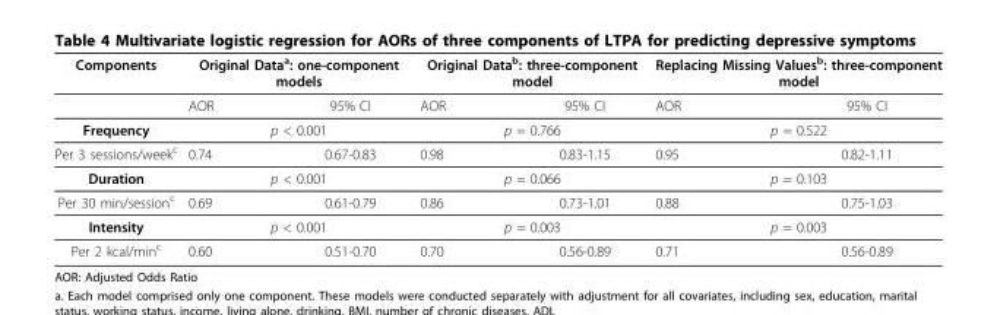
<table><thead><tr><td rowspan="2">Components</td><td colspan="2">Original Data<sup>a</sup>: one-component models</td><td colspan="2">Original Data<sup>b</sup>: three-component model</td><td colspan="2">Replacing Missing Values<sup>b</sup>: three-component model</td></tr><tr><td>AOR</td><td>95% CI</td><td>AOR</td><td>95% CI</td><td>AOR</td><td>95% CI</td></tr></thead><tbody><tr><td>Frequency</td><td colspan="2">p &lt; 0.001</td><td colspan="2">p = 0.766</td><td colspan="2">p = 0.522</td></tr><tr><td>Per 3 sessions/week<sup>c</sup></td><td>0.74</td><td>0.67-0.83</td><td>0.98</td><td>0.83-1.15</td><td>0.95</td><td>0.82-1.11</td></tr><tr><td>Duration</td><td colspan="2">p &lt; 0.001</td><td colspan="2">p = 0.066</td><td colspan="2">p = 0.103</td></tr><tr><td>Per 30 min/session<sup>c</sup></td><td>0.69</td><td>0.61-0.79</td><td>0.86</td><td>0.73-1.01</td><td>0.88</td><td>0.75-1.03</td></tr><tr><td>Intensity</td><td colspan="2">p &lt; 0.001</td><td colspan="2">p = 0.003</td><td colspan="2">p = 0.003</td></tr><tr><td>Per 2 kcal/min<sup>c</sup></td><td>0.60</td><td>0.51-0.70</td><td>0.70</td><td>0.56-0.89</td><td>0.71</td><td>0.56-0.89</td></tr></tbody></table>